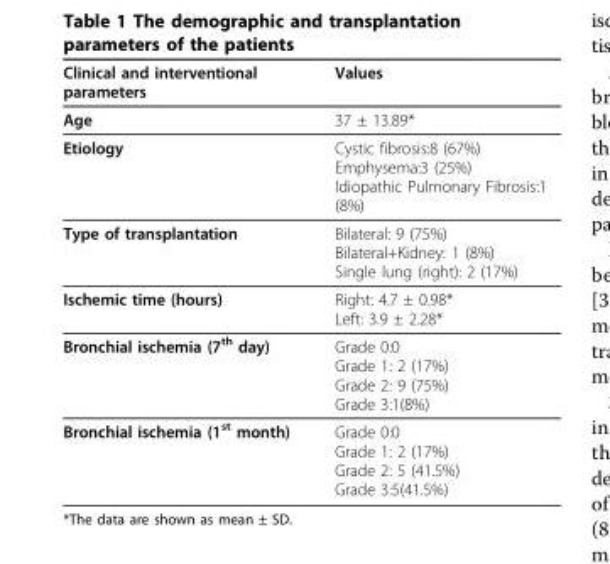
<table><thead><tr><td>Clinical and interventional parameters</td><td>Values</td></tr></thead><tbody><tr><td>Age</td><td>37 ± 13.89*</td></tr><tr><td>Etiology</td><td>Cystic fibrosis:8 (67%) Emphysema:3 (25%) Idiopathic Pulmonary Fibrosis:1 (8%)</td></tr><tr><td>Type of transplantation</td><td>Bilateral: 9 (75%) Bilateral+Kidney: 1 (8%) Single lung (right): 2 (17%)</td></tr><tr><td>Ischemic time (hours)</td><td>Right: 4.7 ± 0.98* Left: 3.9 ± 2.28*</td></tr><tr><td>Bronchial ischemia (7<sup>th</sup> day)</td><td>Grade 0:0 Grade 1: 2 (17%) Grade 2: 9 (75%) Grade 3:1(8%)</td></tr><tr><td>Bronchial ischemia (1<sup>st</sup> month)</td><td>Grade 0:0 Grade 1: 2 (17%) Grade 2: 5 (41.5%) Grade 3:5(41.5%)</td></tr></tbody></table>